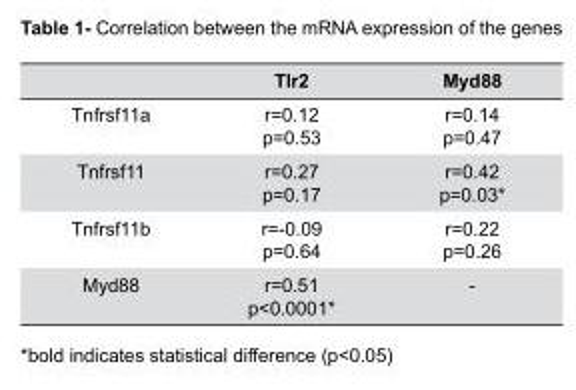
<table><thead><tr><td></td><td>Tlr2</td><td>Myd88</td></tr></thead><tbody><tr><td>Tnfrsf11a</td><td>r=0.12 p=0.53</td><td>r=0.14 p=0.47</td></tr><tr><td>Tnfrsf11</td><td>r=0.27 p=0.17</td><td>r=0.42 p=0.03*</td></tr><tr><td>Tnfrsf11b</td><td>r=-0.09 p=0.64</td><td>r=0.22 p=0.26</td></tr><tr><td>Myd88</td><td>r=0.51 p&lt;0.0001*</td><td>-</td></tr></tbody></table>